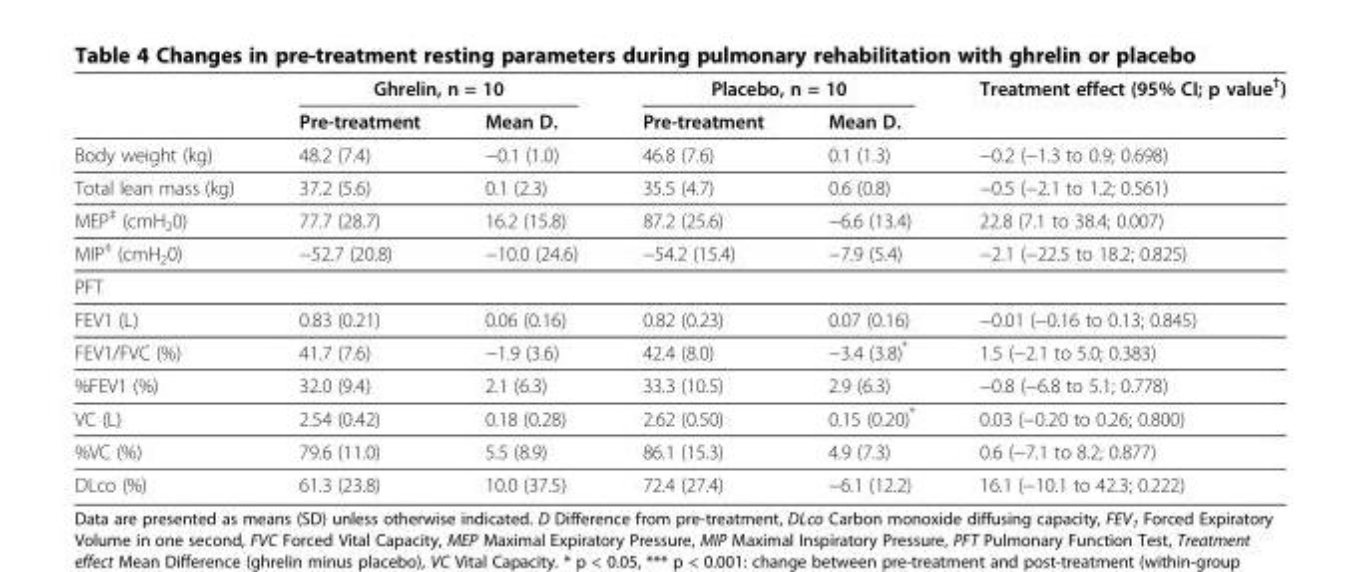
<table><thead><tr><td rowspan="2"></td><td colspan="2">Ghrelin, n = 10</td><td colspan="2">Placebo, n = 10</td><td rowspan="2">Treatment effect (95% CI; p value<sup>†</sup>)</td></tr><tr><td>Pre-treatment</td><td>Mean D.</td><td>Pre-treatment</td><td>Mean D.</td></tr></thead><tbody><tr><td>Body weight (kg)</td><td>48.2 (7.4)</td><td>−0.1 (1.0)</td><td>46.8 (7.6)</td><td>0.1 (1.3)</td><td>−0.2 (−1.3 to 0.9; 0.698)</td></tr><tr><td>Total lean mass (kg)</td><td>37.2 (5.6)</td><td>0.1 (2.3)</td><td>35.5 (4.7)</td><td>0.6 (0.8)</td><td>−0.5 (−2.1 to 1.2; 0.561)</td></tr><tr><td>MEP<sup>‡</sup> (cmH<sub>2</sub>0)</td><td>77.7 (28.7)</td><td>16.2 (15.8)</td><td>87.2 (25.6)</td><td>−6.6 (13.4)</td><td>22.8 (7.1 to 38.4; 0.007)</td></tr><tr><td>MIP<sup>‡</sup> (cmH<sub>2</sub>0)</td><td>−52.7 (20.8)</td><td>−10.0 (24.6)</td><td>−54.2 (15.4)</td><td>−7.9 (5.4)</td><td>−2.1 (−22.5 to 18.2; 0.825)</td></tr><tr><td colspan="6">PFT</td></tr><tr><td>FEV1 (L)</td><td>0.83 (0.21)</td><td>0.06 (0.16)</td><td>0.82 (0.23)</td><td>0.07 (0.16)</td><td>−0.01 (−0.16 to 0.13; 0.845)</td></tr><tr><td>FEV1/FVC (%)</td><td>41.7 (7.6)</td><td>−1.9 (3.6)</td><td>42.4 (8.0)</td><td>−3.4 (3.8)*</td><td>1.5 (−2.1 to 5.0; 0.383)</td></tr><tr><td>%FEV1 (%)</td><td>32.0 (9.4)</td><td>2.1 (6.3)</td><td>33.3 (10.5)</td><td>2.9 (6.3)</td><td>−0.8 (−6.8 to 5.1; 0.778)</td></tr><tr><td>VC (L)</td><td>2.54 (0.42)</td><td>0.18 (0.28)</td><td>2.62 (0.50)</td><td>0.15 (0.20)*</td><td>0.03 (−0.20 to 0.26; 0.800)</td></tr><tr><td>%VC (%)</td><td>79.6 (11.0)</td><td>5.5 (8.9)</td><td>86.1 (15.3)</td><td>4.9 (7.3)</td><td>0.6 (−7.1 to 8.2; 0.877)</td></tr><tr><td>DLco (%)</td><td>61.3 (23.8)</td><td>10.0 (37.5)</td><td>72.4 (27.4)</td><td>−6.1 (12.2)</td><td>16.1 (−10.1 to 42.3; 0.222)</td></tr></tbody></table>